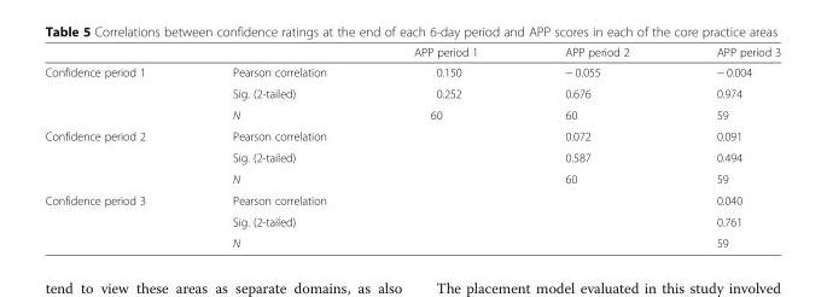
<table><thead><tr><td></td><td></td><td>APP period 1</td><td>APP period 2</td><td>APP period 3</td></tr></thead><tbody><tr><td rowspan="3">Confidence period 1</td><td>Pearson correlation</td><td>0.150</td><td>− 0.055</td><td>− 0.004</td></tr><tr><td>Sig. (2-tailed)</td><td>0.252</td><td>0.676</td><td>0.974</td></tr><tr><td>N</td><td>60</td><td>60</td><td>59</td></tr><tr><td rowspan="3">Confidence period 2</td><td>Pearson correlation</td><td></td><td>0.072</td><td>0.091</td></tr><tr><td>Sig. (2-tailed)</td><td></td><td>0.587</td><td>0.494</td></tr><tr><td>N</td><td></td><td>60</td><td>59</td></tr><tr><td rowspan="3">Confidence period 3</td><td>Pearson correlation</td><td></td><td></td><td>0.040</td></tr><tr><td>Sig. (2-tailed)</td><td></td><td></td><td>0.761</td></tr><tr><td>N</td><td></td><td></td><td>59</td></tr></tbody></table>